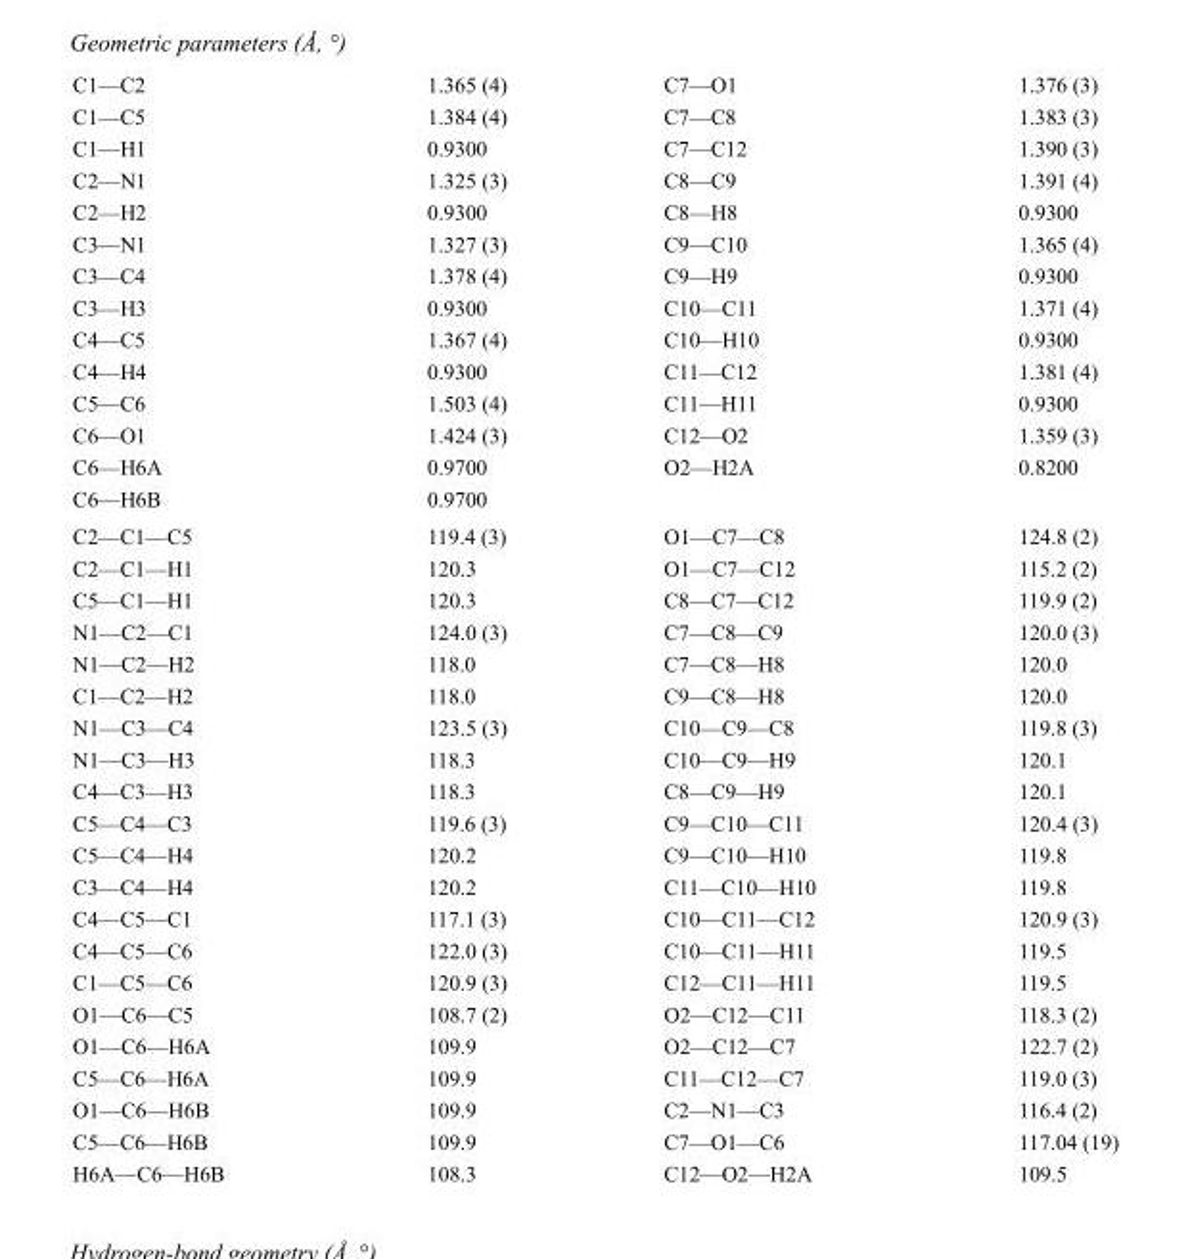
<table><tbody><tr><td>C1—C2</td><td>1.365 (4)</td><td>C7—O1</td><td>1.376 (3)</td></tr><tr><td>C1—C5</td><td>1.384 (4)</td><td>C7—C8</td><td>1.383 (3)</td></tr><tr><td>C1—H1</td><td>0.9300</td><td>C7—C12</td><td>1.390 (3)</td></tr><tr><td>C2—N1</td><td>1.325 (3)</td><td>C8—C9</td><td>1.391 (4)</td></tr><tr><td>C2—H2</td><td>0.9300</td><td>C8—H8</td><td>0.9300</td></tr><tr><td>C3—N1</td><td>1.327 (3)</td><td>C9—C10</td><td>1.365 (4)</td></tr><tr><td>C3—C4</td><td>1.378 (4)</td><td>C9—H9</td><td>0.9300</td></tr><tr><td>C3—H3</td><td>0.9300</td><td>C10—C11</td><td>1.371 (4)</td></tr><tr><td>C4—C5</td><td>1.367 (4)</td><td>C10—H10</td><td>0.9300</td></tr><tr><td>C4—H4</td><td>0.9300</td><td>C11—C12</td><td>1.381 (4)</td></tr><tr><td>C5—C6</td><td>1.503 (4)</td><td>C11—H11</td><td>0.9300</td></tr><tr><td>C6—O1</td><td>1.424 (3)</td><td>C12—O2</td><td>1.359 (3)</td></tr><tr><td>C6—H6A</td><td>0.9700</td><td>O2—H2A</td><td>0.8200</td></tr><tr><td>C6—H6B</td><td>0.9700</td><td></td><td></td></tr><tr><td>C2—C1—C5</td><td>119.4 (3)</td><td>O1—C7—C8</td><td>124.8 (2)</td></tr><tr><td>C2—C1—H1</td><td>120.3</td><td>O1—C7—C12</td><td>115.2 (2)</td></tr><tr><td>C5—C1—H1</td><td>120.3</td><td>C8—C7—C12</td><td>119.9 (2)</td></tr><tr><td>N1—C2—C1</td><td>124.0 (3)</td><td>C7—C8—C9</td><td>120.0 (3)</td></tr><tr><td>N1—C2—H2</td><td>118.0</td><td>C7—C8—H8</td><td>120.0</td></tr><tr><td>C1—C2—H2</td><td>118.0</td><td>C9—C8—H8</td><td>120.0</td></tr><tr><td>N1—C3—C4</td><td>123.5 (3)</td><td>C10—C9—C8</td><td>119.8 (3)</td></tr><tr><td>N1—C3—H3</td><td>118.3</td><td>C10—C9—H9</td><td>120.1</td></tr><tr><td>C4—C3—H3</td><td>118.3</td><td>C8—C9—H9</td><td>120.1</td></tr><tr><td>C5—C4—C3</td><td>119.6 (3)</td><td>C9—C10—C11</td><td>120.4 (3)</td></tr><tr><td>C5—C4—H4</td><td>120.2</td><td>C9—C10—H10</td><td>119.8</td></tr><tr><td>C3—C4—H4</td><td>120.2</td><td>C11—C10—H10</td><td>119.8</td></tr><tr><td>C4—C5—C1</td><td>117.1 (3)</td><td>C10—C11—C12</td><td>120.9 (3)</td></tr><tr><td>C4—C5—C6</td><td>122.0 (3)</td><td>C10—C11—H11</td><td>119.5</td></tr><tr><td>C1—C5—C6</td><td>120.9 (3)</td><td>C12—C11—H11</td><td>119.5</td></tr><tr><td>O1—C6—C5</td><td>108.7 (2)</td><td>O2—C12—C11</td><td>118.3 (2)</td></tr><tr><td>O1—C6—H6A</td><td>109.9</td><td>O2—C12—C7</td><td>122.7 (2)</td></tr><tr><td>C5—C6—H6A</td><td>109.9</td><td>C11—C12—C7</td><td>119.0 (3)</td></tr><tr><td>O1—C6—H6B</td><td>109.9</td><td>C2—N1—C3</td><td>116.4 (2)</td></tr><tr><td>C5—C6—H6B</td><td>109.9</td><td>C7—O1—C6</td><td>117.04 (19)</td></tr><tr><td>H6A—C6—H6B</td><td>108.3</td><td>C12—O2—H2A</td><td>109.5</td></tr></tbody></table>